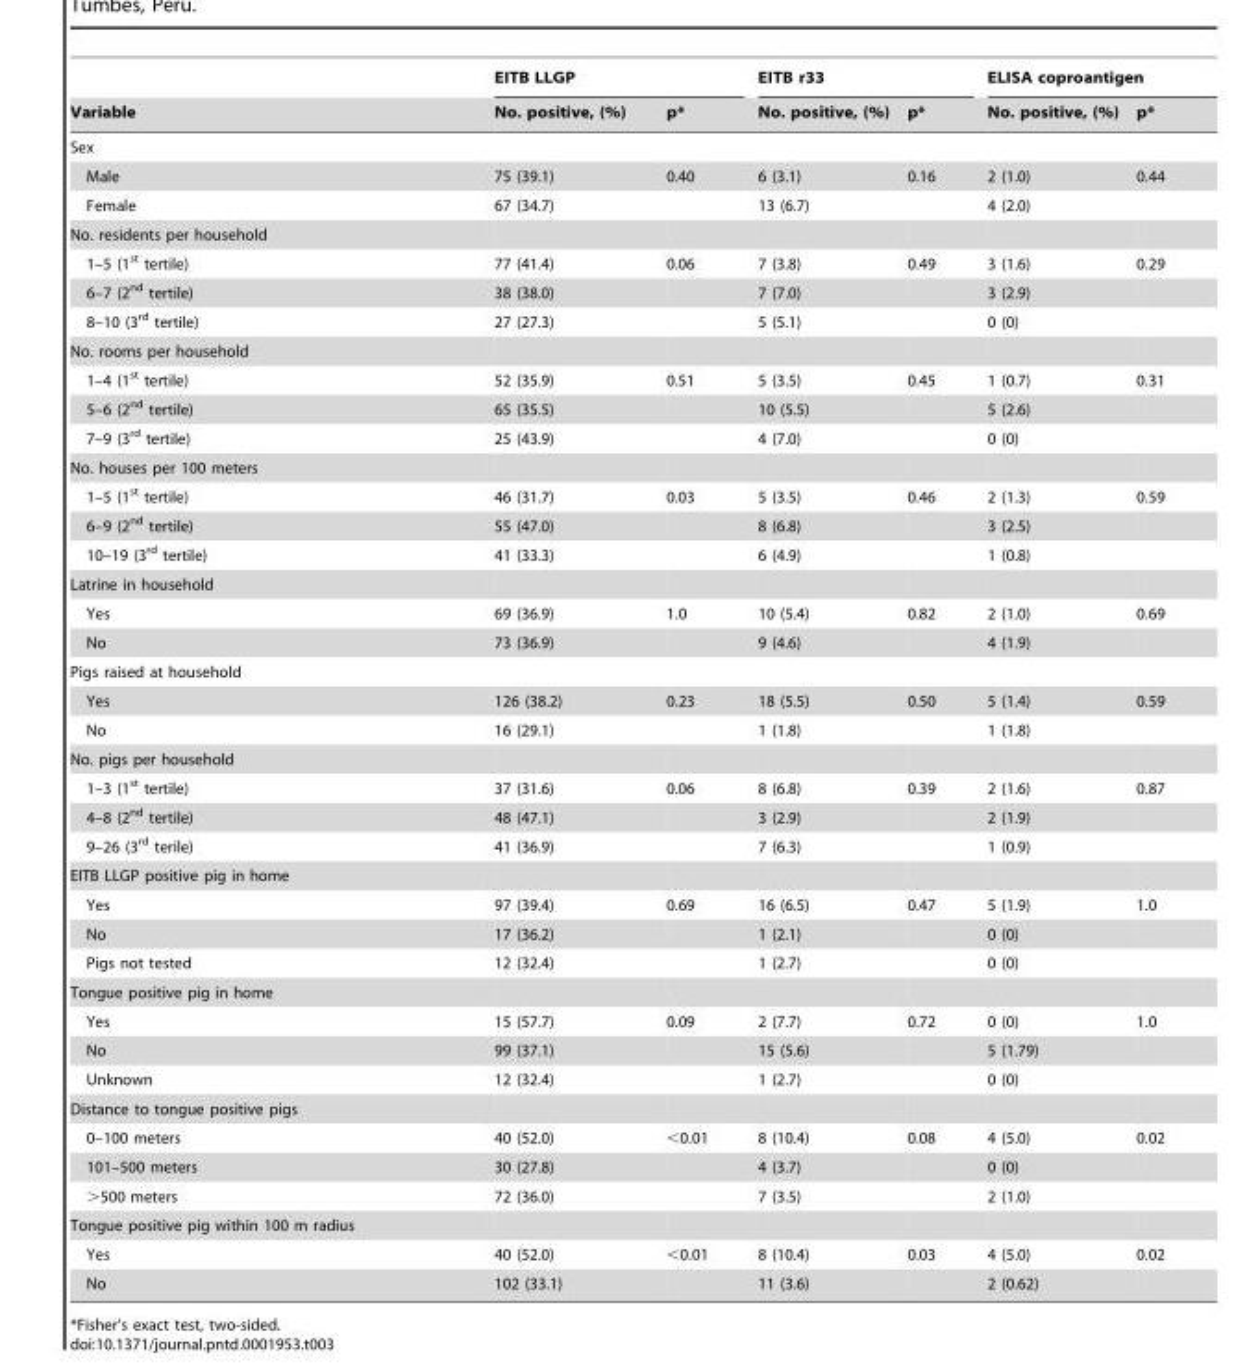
<table><thead><tr><td rowspan="2">Variable</td><td colspan="2">EITB LLGP</td><td colspan="2">EITB r33</td><td colspan="2">ELISA coproantigen</td></tr><tr><td>No. positive, (%)</td><td>p*</td><td>No. positive, (%)</td><td>p*</td><td>No. positive, (%)</td><td>p*</td></tr></thead><tbody><tr><td colspan="7">Sex</td></tr><tr><td>Male</td><td>75 (39.1)</td><td>0.40</td><td>6 (3.1)</td><td>0.16</td><td>2 (1.0)</td><td>0.44</td></tr><tr><td>Female</td><td>67 (34.7)</td><td></td><td>13 (6.7)</td><td></td><td>4 (2.0)</td><td></td></tr><tr><td colspan="7">No. residents per household</td></tr><tr><td>1–5 (1<sup>st</sup> tertile)</td><td>77 (41.4)</td><td>0.06</td><td>7 (3.8)</td><td>0.49</td><td>3 (1.6)</td><td>0.29</td></tr><tr><td>6–7 (2<sup>nd</sup> tertile)</td><td>38 (38.0)</td><td></td><td>7 (7.0)</td><td></td><td>3 (2.9)</td><td></td></tr><tr><td>8–10 (3<sup>rd</sup> tertile)</td><td>27 (27.3)</td><td></td><td>5 (5.1)</td><td></td><td>0 (0)</td><td></td></tr><tr><td colspan="7">No. rooms per household</td></tr><tr><td>1–4 (1<sup>st</sup> tertile)</td><td>52 (35.9)</td><td>0.51</td><td>5 (3.5)</td><td>0.45</td><td>1 (0.7)</td><td>0.31</td></tr><tr><td>5–6 (2<sup>nd</sup> tertile)</td><td>65 (35.5)</td><td></td><td>10 (5.5)</td><td></td><td>5 (2.6)</td><td></td></tr><tr><td>7–9 (3<sup>rd</sup> tertile)</td><td>25 (43.9)</td><td></td><td>4 (7.0)</td><td></td><td>0 (0)</td><td></td></tr><tr><td colspan="7">No. houses per 100 meters</td></tr><tr><td>1–5 (1<sup>st</sup> tertile)</td><td>46 (31.7)</td><td>0.03</td><td>5 (3.5)</td><td>0.46</td><td>2 (1.3)</td><td>0.59</td></tr><tr><td>6–9 (2<sup>nd</sup> tertile)</td><td>55 (47.0)</td><td></td><td>8 (6.8)</td><td></td><td>3 (2.5)</td><td></td></tr><tr><td>10–19 (3<sup>rd</sup> tertile)</td><td>41 (33.3)</td><td></td><td>6 (4.9)</td><td></td><td>1 (0.8)</td><td></td></tr><tr><td colspan="7">Latrine in household</td></tr><tr><td>Yes</td><td>69 (36.9)</td><td>1.0</td><td>10 (5.4)</td><td>0.82</td><td>2 (1.0)</td><td>0.69</td></tr><tr><td>No</td><td>73 (36.9)</td><td></td><td>9 (4.6)</td><td></td><td>4 (1.9)</td><td></td></tr><tr><td colspan="7">Pigs raised at household</td></tr><tr><td>Yes</td><td>126 (38.2)</td><td>0.23</td><td>18 (5.5)</td><td>0.50</td><td>5 (1.4)</td><td>0.59</td></tr><tr><td>No</td><td>16 (29.1)</td><td></td><td>1 (1.8)</td><td></td><td>1 (1.8)</td><td></td></tr><tr><td colspan="7">No. pigs per household</td></tr><tr><td>1–3 (1<sup>st</sup> tertile)</td><td>37 (31.6)</td><td>0.06</td><td>8 (6.8)</td><td>0.39</td><td>2 (1.6)</td><td>0.87</td></tr><tr><td>4–8 (2<sup>nd</sup> tertile)</td><td>48 (47.1)</td><td></td><td>3 (2.9)</td><td></td><td>2 (1.9)</td><td></td></tr><tr><td>9–26 (3<sup>rd</sup> terile)</td><td>41 (36.9)</td><td></td><td>7 (6.3)</td><td></td><td>1 (0.9)</td><td></td></tr><tr><td colspan="7">EITB LLGP positive pig in home</td></tr><tr><td>Yes</td><td>97 (39.4)</td><td>0.69</td><td>16 (6.5)</td><td>0.47</td><td>5 (1.9)</td><td>1.0</td></tr><tr><td>No</td><td>17 (36.2)</td><td></td><td>1 (2.1)</td><td></td><td>0 (0)</td><td></td></tr><tr><td>Pigs not tested</td><td>12 (32.4)</td><td></td><td>1 (2.7)</td><td></td><td>0 (0)</td><td></td></tr><tr><td colspan="7">Tongue positive pig in home</td></tr><tr><td>Yes</td><td>15 (57.7)</td><td>0.09</td><td>2 (7.7)</td><td>0.72</td><td>0 (0)</td><td>1.0</td></tr><tr><td>No</td><td>99 (37.1)</td><td></td><td>15 (5.6)</td><td></td><td>5 (1.79)</td><td></td></tr><tr><td>Unknown</td><td>12 (32.4)</td><td></td><td>1 (2.7)</td><td></td><td>0 (0)</td><td></td></tr><tr><td colspan="7">Distance to tongue positive pigs</td></tr><tr><td>0–100 meters</td><td>40 (52.0)</td><td>&lt;0.01</td><td>8 (10.4)</td><td>0.08</td><td>4 (5.0)</td><td>0.02</td></tr><tr><td>101–500 meters</td><td>30 (27.8)</td><td></td><td>4 (3.7)</td><td></td><td>0 (0)</td><td></td></tr><tr><td>&gt;500 meters</td><td>72 (36.0)</td><td></td><td>7 (3.5)</td><td></td><td>2 (1.0)</td><td></td></tr><tr><td colspan="7">Tongue positive pig within 100 m radius</td></tr><tr><td>Yes</td><td>40 (52.0)</td><td>&lt;0.01</td><td>8 (10.4)</td><td>0.03</td><td>4 (5.0)</td><td>0.02</td></tr><tr><td>No</td><td>102 (33.1)</td><td></td><td>11 (3.6)</td><td></td><td>2 (0.62)</td><td></td></tr></tbody></table>